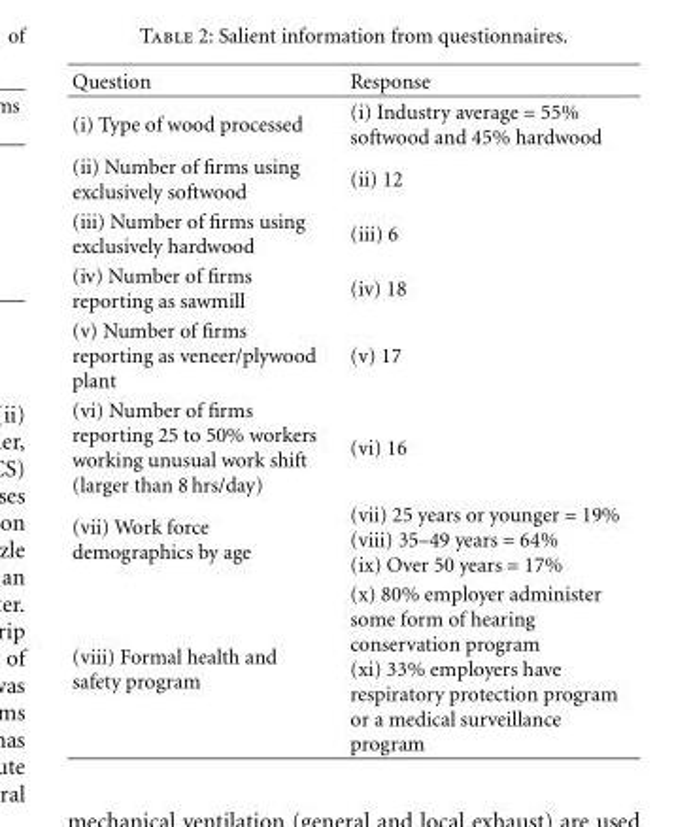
<table><thead><tr><td>Question</td><td>Response</td></tr></thead><tbody><tr><td>(i) Type of wood processed</td><td>(i) Industry average = 55% softwood and 45% hardwood</td></tr><tr><td>(ii) Number of firms using exclusively softwood</td><td>(ii) 12</td></tr><tr><td>(iii) Number of firms using exclusively hardwood</td><td>(iii) 6</td></tr><tr><td>(iv) Number of firms reporting as sawmill</td><td>(iv) 18</td></tr><tr><td>(v) Number of firms reporting as veneer/plywood plant</td><td>(v) 17</td></tr><tr><td>(vi) Number of firms reporting 25 to 50% workers working unusual work shift (larger than 8 hrs/day)</td><td>(vi) 16</td></tr><tr><td>(vii) Work force demographics by age</td><td>(vii) 25 years or younger = 19% (viii) 35–49 years = 64% (ix) Over 50 years = 17%</td></tr><tr><td>(viii) Formal health and safety program</td><td>(x) 80% employer administer some form of hearing conservation program (xi) 33% employers have respiratory protection program or a medical surveillance program</td></tr></tbody></table>